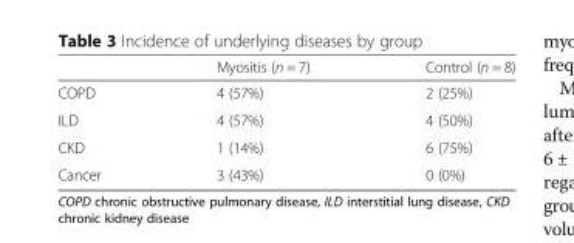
<table><thead><tr><td></td><td>Myositis (n = 7)</td><td>Control (n = 8)</td></tr></thead><tbody><tr><td>COPD</td><td>4 (57%)</td><td>2 (25%)</td></tr><tr><td>ILD</td><td>4 (57%)</td><td>4 (50%)</td></tr><tr><td>CKD</td><td>1 (14%)</td><td>6 (75%)</td></tr><tr><td>Cancer</td><td>3 (43%)</td><td>0 (0%)</td></tr></tbody></table>